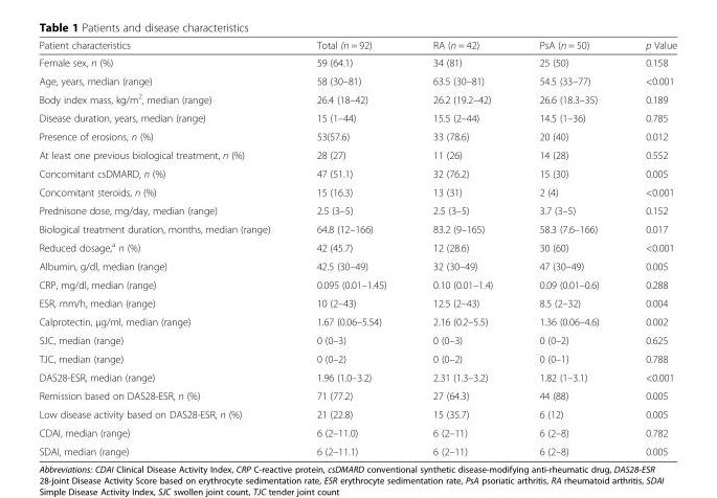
<table><thead><tr><td>Patient characteristics</td><td>Total (n = 92)</td><td>RA (n = 42)</td><td>PsA (n = 50)</td><td>p Value</td></tr></thead><tbody><tr><td>Female sex, n (%)</td><td>59 (64.1)</td><td>34 (81)</td><td>25 (50)</td><td>0.158</td></tr><tr><td>Age, years, median (range)</td><td>58 (30–81)</td><td>63.5 (30–81)</td><td>54.5 (33–77)</td><td>&lt;0.001</td></tr><tr><td>Body index mass, kg/m<sup>2</sup>, median (range)</td><td>26.4 (18–42)</td><td>26.2 (19.2–42)</td><td>26.6 (18.3–35)</td><td>0.189</td></tr><tr><td>Disease duration, years, median (range)</td><td>15 (1–44)</td><td>15.5 (2–44)</td><td>14.5 (1–36)</td><td>0.785</td></tr><tr><td>Presence of erosions, n (%)</td><td>53(57.6)</td><td>33 (78.6)</td><td>20 (40)</td><td>0.012</td></tr><tr><td>At least one previous biological treatment, n (%)</td><td>28 (27)</td><td>11 (26)</td><td>14 (28)</td><td>0.552</td></tr><tr><td>Concomitant csDMARD, n (%)</td><td>47 (51.1)</td><td>32 (76.2)</td><td>15 (30)</td><td>0.005</td></tr><tr><td>Concomitant steroids, n (%)</td><td>15 (16.3)</td><td>13 (31)</td><td>2 (4)</td><td>&lt;0.001</td></tr><tr><td>Prednisone dose, mg/day, median (range)</td><td>2.5 (3–5)</td><td>2.5 (3–5)</td><td>3.7 (3–5)</td><td>0.152</td></tr><tr><td>Biological treatment duration, months, median (range)</td><td>64.8 (12–166)</td><td>83.2 (9–165)</td><td>58.3 (7.6–166)</td><td>0.017</td></tr><tr><td>Reduced dosage,<sup>a</sup> n (%)</td><td>42 (45.7)</td><td>12 (28.6)</td><td>30 (60)</td><td>&lt;0.001</td></tr><tr><td>Albumin, g/dl, median (range)</td><td>42.5 (30–49)</td><td>32 (30–49)</td><td>47 (30–49)</td><td>0.005</td></tr><tr><td>CRP, mg/dl, median (range)</td><td>0.095 (0.01–1.45)</td><td>0.10 (0.01–1.4)</td><td>0.09 (0.01–0.6)</td><td>0.288</td></tr><tr><td>ESR, mm/h, median (range)</td><td>10 (2–43)</td><td>12.5 (2–43)</td><td>8.5 (2–32)</td><td>0.004</td></tr><tr><td>Calprotectin, μg/ml, median (range)</td><td>1.67 (0.06–5.54)</td><td>2.16 (0.2–5.5)</td><td>1.36 (0.06–4.6)</td><td>0.002</td></tr><tr><td>SJC, median (range)</td><td>0 (0–3)</td><td>0 (0–3)</td><td>0 (0–2)</td><td>0.625</td></tr><tr><td>TJC, median (range)</td><td>0 (0–2)</td><td>0 (0–2)</td><td>0 (0–1)</td><td>0.788</td></tr><tr><td>DAS28-ESR, median (range)</td><td>1.96 (1.0–3.2)</td><td>2.31 (1.3–3.2)</td><td>1.82 (1–3.1)</td><td>&lt;0.001</td></tr><tr><td>Remission based on DAS28-ESR, n (%)</td><td>71 (77.2)</td><td>27 (64.3)</td><td>44 (88)</td><td>0.005</td></tr><tr><td>Low disease activity based on DAS28-ESR, n (%)</td><td>21 (22.8)</td><td>15 (35.7)</td><td>6 (12)</td><td>0.005</td></tr><tr><td>CDAI, median (range)</td><td>6 (2–11.0)</td><td>6 (2–11)</td><td>6 (2–8)</td><td>0.782</td></tr><tr><td>SDAI, median (range)</td><td>6 (2–11.1)</td><td>6 (2–11)</td><td>6 (2–8)</td><td>0.005</td></tr></tbody></table>